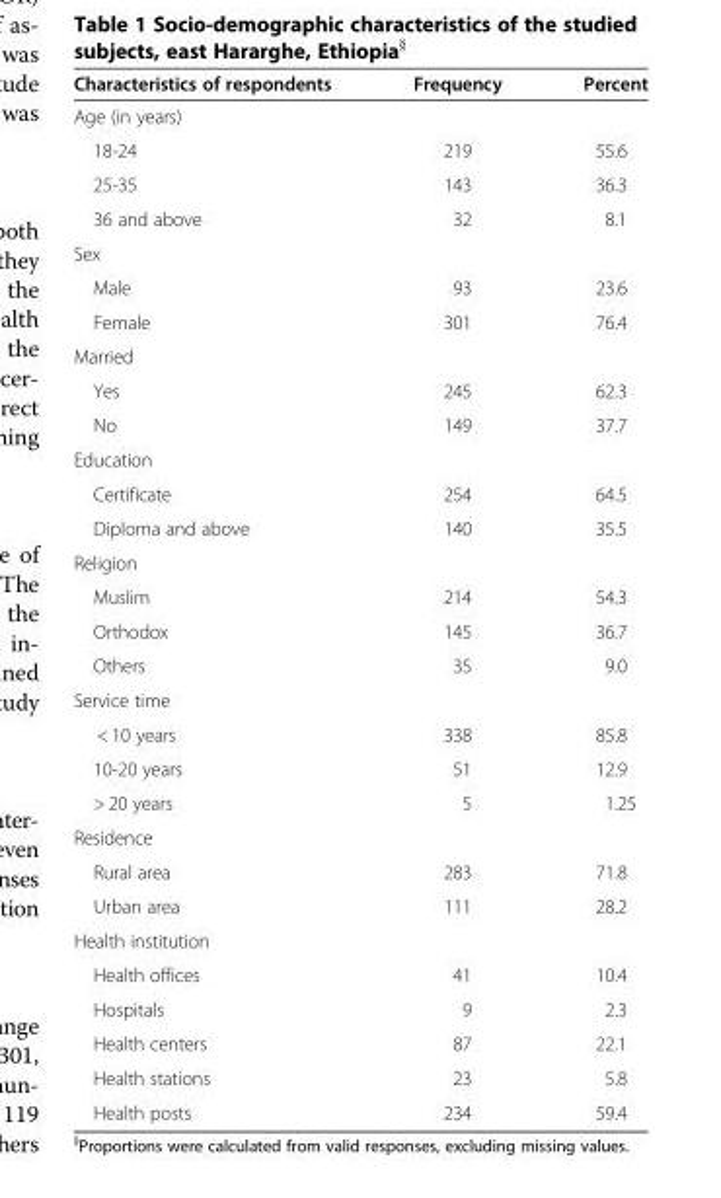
<table><thead><tr><td>Characteristics of respondents</td><td>Frequency</td><td>Percent</td></tr></thead><tbody><tr><td colspan="3">Age (in years)</td></tr><tr><td>18-24</td><td>219</td><td>55.6</td></tr><tr><td>25-35</td><td>143</td><td>36.3</td></tr><tr><td>36 and above</td><td>32</td><td>8.1</td></tr><tr><td colspan="3">Sex</td></tr><tr><td>Male</td><td>93</td><td>23.6</td></tr><tr><td>Female</td><td>301</td><td>76.4</td></tr><tr><td colspan="3">Married</td></tr><tr><td>Yes</td><td>245</td><td>62.3</td></tr><tr><td>No</td><td>149</td><td>37.7</td></tr><tr><td colspan="3">Education</td></tr><tr><td>Certificate</td><td>254</td><td>64.5</td></tr><tr><td>Diploma and above</td><td>140</td><td>35.5</td></tr><tr><td colspan="3">Religion</td></tr><tr><td>Muslim</td><td>214</td><td>54.3</td></tr><tr><td>Orthodox</td><td>145</td><td>36.7</td></tr><tr><td>Others</td><td>35</td><td>9.0</td></tr><tr><td colspan="3">Service time</td></tr><tr><td>&lt; 10 years</td><td>338</td><td>85.8</td></tr><tr><td>10-20 years</td><td>51</td><td>12.9</td></tr><tr><td>&gt; 20 years</td><td>5</td><td>1.25</td></tr><tr><td colspan="3">Residence</td></tr><tr><td>Rural area</td><td>283</td><td>71.8</td></tr><tr><td>Urban area</td><td>111</td><td>28.2</td></tr><tr><td colspan="3">Health institution</td></tr><tr><td>Health offices</td><td>41</td><td>10.4</td></tr><tr><td>Hospitals</td><td>9</td><td>2.3</td></tr><tr><td>Health centers</td><td>87</td><td>22.1</td></tr><tr><td>Health stations</td><td>23</td><td>5.8</td></tr><tr><td>Health posts</td><td>234</td><td>59.4</td></tr></tbody></table>